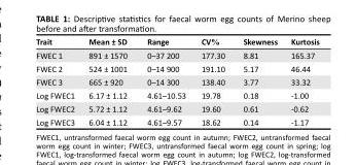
<table><thead><tr><td>Trait</td><td>Mean ± SD</td><td>Range</td><td>CV%</td><td>Skewness</td><td>Kurtosis</td></tr></thead><tbody><tr><td>FWEC 1</td><td>891 ± 1570</td><td>0–37 200</td><td>177.30</td><td>8.81</td><td>165.37</td></tr><tr><td>FWEC 2</td><td>524 ± 1001</td><td>0–14 900</td><td>191.10</td><td>5.17</td><td>46.44</td></tr><tr><td>FWEC 3</td><td>665 ± 920</td><td>0–14 300</td><td>138.40</td><td>3.77</td><td>33.32</td></tr><tr><td>Log FWEC1</td><td>6.17 ± 1.12</td><td>4.61–10.53</td><td>19.78</td><td>0.18</td><td>-1.00</td></tr><tr><td>Log FWEC2</td><td>5.72 ± 1.12</td><td>4.61–9.62</td><td>19.60</td><td>0.61</td><td>-0.62</td></tr><tr><td>Log FWEC3</td><td>6.04 ± 1.12</td><td>4.61–9.57</td><td>18.62</td><td>0.14</td><td>-1.17</td></tr></tbody></table>